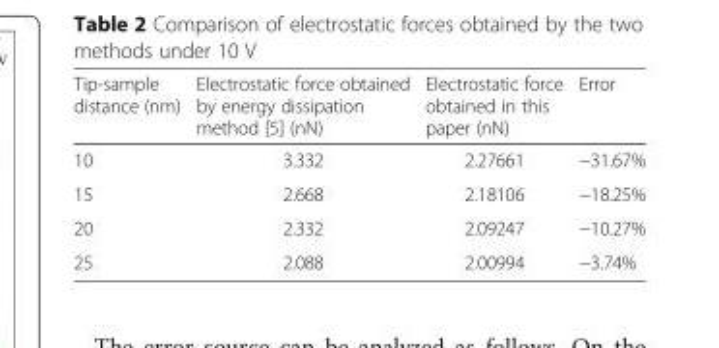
<table><thead><tr><td>Tip-sample distance (nm)</td><td>Electrostatic force obtained by energy dissipation method [5] (nN)</td><td>Electrostatic force obtained in this paper (nN)</td><td>Error</td></tr></thead><tbody><tr><td>10</td><td>3.332</td><td>2.27661</td><td>−31.67%</td></tr><tr><td>15</td><td>2.668</td><td>2.18106</td><td>−18.25%</td></tr><tr><td>20</td><td>2.332</td><td>2.09247</td><td>−10.27%</td></tr><tr><td>25</td><td>2.088</td><td>2.00994</td><td>−3.74%</td></tr></tbody></table>